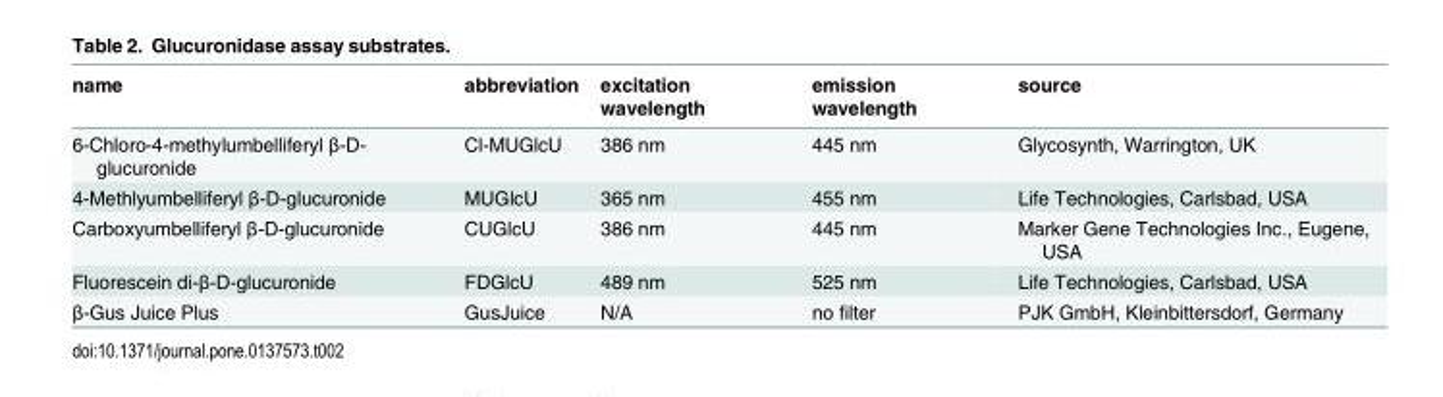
<table><thead><tr><td>name</td><td>abbreviation</td><td>excitation wavelength</td><td>emission wavelength</td><td>source</td></tr></thead><tbody><tr><td>6-Chloro-4-methylumbelliferyl β-D- glucuronide</td><td>Cl-MUGlcU</td><td>386 nm</td><td>445 nm</td><td>Glycosynth, Warrington, UK</td></tr><tr><td>4-Methlyumbelliferyl β-D-glucuronide</td><td>MUGlcU</td><td>365 nm</td><td>455 nm</td><td>Life Technologies, Carlsbad, USA</td></tr><tr><td>Carboxyumbelliferyl β-D-glucuronide</td><td>CUGlcU</td><td>386 nm</td><td>445 nm</td><td>Marker Gene Technologies Inc., Eugene, USA</td></tr><tr><td>Fluorescein di-β-D-glucuronide</td><td>FDGlcU</td><td>489 nm</td><td>525 nm</td><td>Life Technologies, Carlsbad, USA</td></tr><tr><td>β-Gus Juice Plus</td><td>GusJuice</td><td>N/A</td><td>no filter</td><td>PJK GmbH, Kleinbittersdorf, Germany</td></tr></tbody></table>